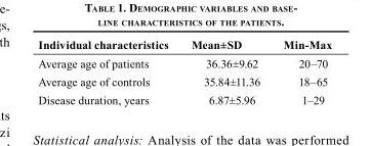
<table><thead><tr><td>Individual characteristics</td><td>Mean±SD</td><td>Min-Max</td></tr></thead><tbody><tr><td>Average age of patients</td><td>36.36±9.62</td><td>20–70</td></tr><tr><td>Average age of controls</td><td>35.84±11.36</td><td>18–65</td></tr><tr><td>Disease duration, years</td><td>6.87±5.96</td><td>1–29</td></tr></tbody></table>